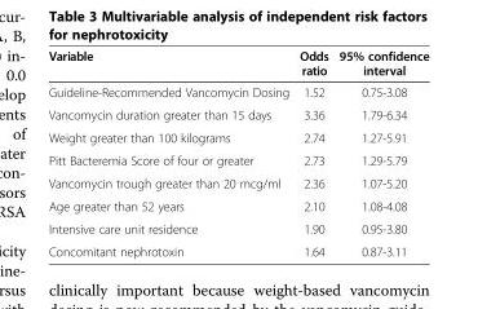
<table><thead><tr><td>Variable</td><td>Odds ratio</td><td>95% confidence interval</td></tr></thead><tbody><tr><td>Guideline-Recommended Vancomycin Dosing</td><td>1.52</td><td>0.75-3.08</td></tr><tr><td>Vancomycin duration greater than 15 days</td><td>3.36</td><td>1.79-6.34</td></tr><tr><td>Weight greater than 100 kilograms</td><td>2.74</td><td>1.27-5.91</td></tr><tr><td>Pitt Bacteremia Score of four or greater</td><td>2.73</td><td>1.29-5.79</td></tr><tr><td>Vancomycin trough greater than 20 mcg/ml</td><td>2.36</td><td>1.07-5.20</td></tr><tr><td>Age greater than 52 years</td><td>2.10</td><td>1.08-4.08</td></tr><tr><td>Intensive care unit residence</td><td>1.90</td><td>0.95-3.80</td></tr><tr><td>Concomitant nephrotoxin</td><td>1.64</td><td>0.87-3.11</td></tr></tbody></table>